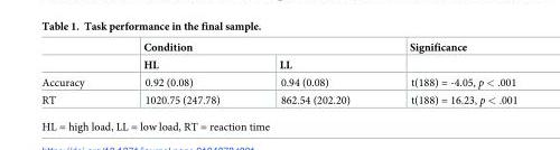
<table><thead><tr><td rowspan="2"></td><td colspan="2">Condition</td><td rowspan="2">Significance</td></tr><tr><td>HL</td><td>LL</td></tr></thead><tbody><tr><td>Accuracy</td><td>0.92 (0.08)</td><td>0.94 (0.08)</td><td>t(188) = -4.05, p &lt; .001</td></tr><tr><td>RT</td><td>1020.75 (247.78)</td><td>862.54 (202.20)</td><td>t(188) = 16.23, p &lt; .001</td></tr></tbody></table>